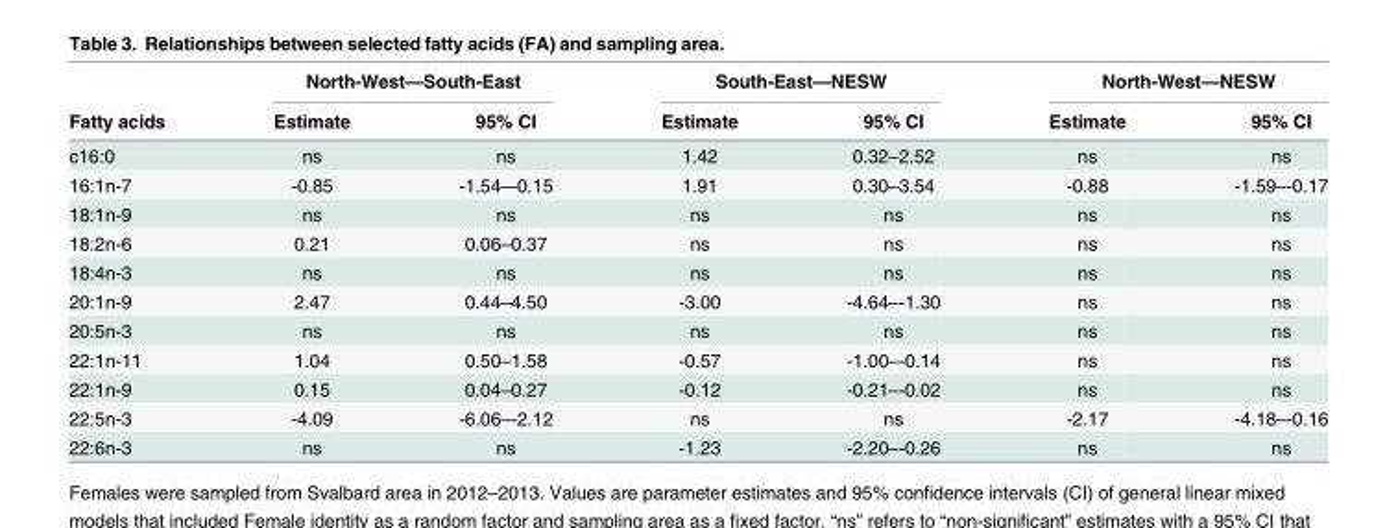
<table><thead><tr><td rowspan="2">Fatty acids</td><td colspan="2">North-West—South-East</td><td colspan="2">South-East—NESW</td><td colspan="2">North-West—NESW</td></tr><tr><td>Estimate</td><td>95% CI</td><td>Estimate</td><td>95% CI</td><td>Estimate</td><td>95% CI</td></tr></thead><tbody><tr><td>c16:0</td><td>ns</td><td>ns</td><td>1.42</td><td>0.32–2.52</td><td>ns</td><td>ns</td></tr><tr><td>16:1n-7</td><td>-0.85</td><td>-1.54–-0.15</td><td>1.91</td><td>0.30–3.54</td><td>-0.88</td><td>-1.59–-0.17</td></tr><tr><td>18:1n-9</td><td>ns</td><td>ns</td><td>ns</td><td>ns</td><td>ns</td><td>ns</td></tr><tr><td>18:2n-6</td><td>0.21</td><td>0.06–0.37</td><td>ns</td><td>ns</td><td>ns</td><td>ns</td></tr><tr><td>18:4n-3</td><td>ns</td><td>ns</td><td>ns</td><td>ns</td><td>ns</td><td>ns</td></tr><tr><td>20:1n-9</td><td>2.47</td><td>0.44–4.50</td><td>-3.00</td><td>-4.64–-1.30</td><td>ns</td><td>ns</td></tr><tr><td>20:5n-3</td><td>ns</td><td>ns</td><td>ns</td><td>ns</td><td>ns</td><td>ns</td></tr><tr><td>22:1n-11</td><td>1.04</td><td>0.50–1.58</td><td>-0.57</td><td>-1.00–-0.14</td><td>ns</td><td>ns</td></tr><tr><td>22:1n-9</td><td>0.15</td><td>0.04–0.27</td><td>-0.12</td><td>-0.21–-0.02</td><td>ns</td><td>ns</td></tr><tr><td>22:5n-3</td><td>-4.09</td><td>-6.06–-2.12</td><td>ns</td><td>ns</td><td>-2.17</td><td>-4.18–-0.16</td></tr><tr><td>22:6n-3</td><td>ns</td><td>ns</td><td>-1.23</td><td>-2.20–-0.26</td><td>ns</td><td>ns</td></tr></tbody></table>